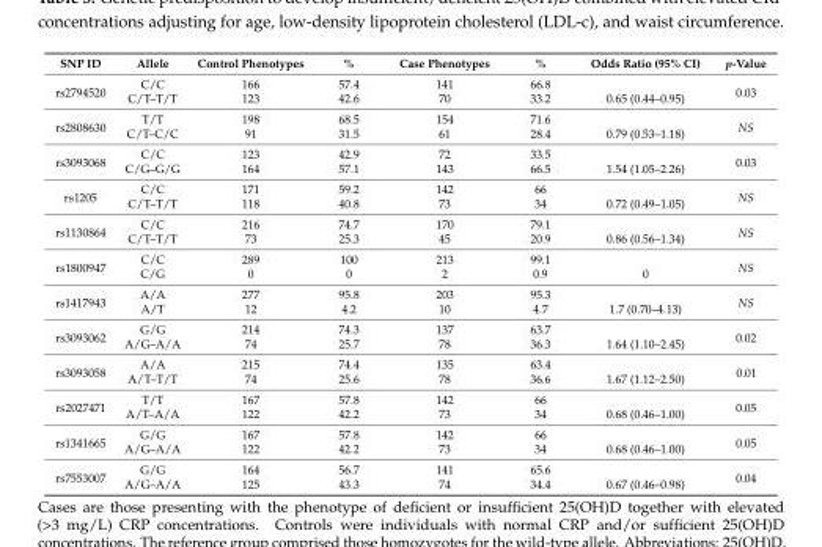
<table><thead><tr><td>SNP ID</td><td>Allele</td><td>Control Phenotypes</td><td>%</td><td>Case Phenotypes</td><td>%</td><td>Odds Ratio (95% CI)</td><td>p-Value</td></tr></thead><tbody><tr><td rowspan="2">rs2794520</td><td>C/C</td><td>166</td><td>57.4</td><td>141</td><td>66.8</td><td></td><td rowspan="2">0.03</td></tr><tr><td>C/T–T/T</td><td>123</td><td>42.6</td><td>70</td><td>33.2</td><td>0.65 (0.44–0.95)</td></tr><tr><td rowspan="2">rs2808630</td><td>T/T</td><td>198</td><td>68.5</td><td>154</td><td>71.6</td><td></td><td rowspan="2">NS</td></tr><tr><td>C/T–C/C</td><td>91</td><td>31.5</td><td>61</td><td>28.4</td><td>0.79 (0.53–1.18)</td></tr><tr><td rowspan="2">rs3093068</td><td>C/C</td><td>123</td><td>42.9</td><td>72</td><td>33.5</td><td></td><td rowspan="2">0.03</td></tr><tr><td>C/G–G/G</td><td>164</td><td>57.1</td><td>143</td><td>66.5</td><td>1.54 (1.05–2.26)</td></tr><tr><td rowspan="2">rs1205</td><td>C/C</td><td>171</td><td>59.2</td><td>142</td><td>66</td><td></td><td rowspan="2">NS</td></tr><tr><td>C/T–T/T</td><td>118</td><td>40.8</td><td>73</td><td>34</td><td>0.72 (0.49–1.05)</td></tr><tr><td rowspan="2">rs1130864</td><td>C/C</td><td>216</td><td>74.7</td><td>170</td><td>79.1</td><td></td><td rowspan="2">NS</td></tr><tr><td>C/T–T/T</td><td>73</td><td>25.3</td><td>45</td><td>20.9</td><td>0.86 (0.56–1.34)</td></tr><tr><td rowspan="2">rs1800947</td><td>C/C</td><td>289</td><td>100</td><td>213</td><td>99.1</td><td></td><td rowspan="2">NS</td></tr><tr><td>C/G</td><td>0</td><td>0</td><td>2</td><td>0.9</td><td>0</td></tr><tr><td rowspan="2">rs1417943</td><td>A/A</td><td>277</td><td>95.8</td><td>203</td><td>95.3</td><td></td><td rowspan="2">NS</td></tr><tr><td>A/T</td><td>12</td><td>4.2</td><td>10</td><td>4.7</td><td>1.7 (0.70–4.13)</td></tr><tr><td rowspan="2">rs3093062</td><td>G/G</td><td>214</td><td>74.3</td><td>137</td><td>63.7</td><td></td><td rowspan="2">0.02</td></tr><tr><td>A/G–A/A</td><td>74</td><td>25.7</td><td>78</td><td>36.3</td><td>1.64 (1.10–2.45)</td></tr><tr><td rowspan="2">rs3093058</td><td>A/A</td><td>215</td><td>74.4</td><td>135</td><td>63.4</td><td></td><td rowspan="2">0.01</td></tr><tr><td>A/T–T/T</td><td>74</td><td>25.6</td><td>78</td><td>36.6</td><td>1.67 (1.12–2.50)</td></tr><tr><td rowspan="2">rs2027471</td><td>T/T</td><td>167</td><td>57.8</td><td>142</td><td>66</td><td></td><td rowspan="2">0.05</td></tr><tr><td>A/T–A/A</td><td>122</td><td>42.2</td><td>73</td><td>34</td><td>0.68 (0.46–1.00)</td></tr><tr><td rowspan="2">rs1341665</td><td>G/G</td><td>167</td><td>57.8</td><td>142</td><td>66</td><td></td><td rowspan="2">0.05</td></tr><tr><td>A/G–A/A</td><td>122</td><td>42.2</td><td>73</td><td>34</td><td>0.68 (0.46–1.00)</td></tr><tr><td rowspan="2">rs7553007</td><td>G/G</td><td>164</td><td>56.7</td><td>141</td><td>65.6</td><td></td><td rowspan="2">0.04</td></tr><tr><td>A/G–A/A</td><td>125</td><td>43.3</td><td>74</td><td>34.4</td><td>0.67 (0.46–0.98)</td></tr></tbody></table>